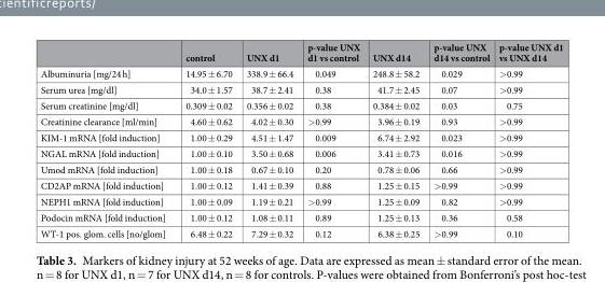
<table><thead><tr><td></td><td>control</td><td>UNX d1</td><td>p-value UNX d1 vs control</td><td>UNX d14</td><td>p-value UNX d14 vs control</td><td>p-value UNX d1 vs UNX d14</td></tr></thead><tbody><tr><td>Albuminuria [mg/24 h]</td><td>14.95 ± 6.70</td><td>338.9 ± 66.4</td><td>0.049</td><td>248.8 ± 58.2</td><td>0.029</td><td>&gt;0.99</td></tr><tr><td>Serum urea [mg/dl]</td><td>34.0 ± 1.57</td><td>38.7 ± 2.41</td><td>0.38</td><td>41.7 ± 2.45</td><td>0.07</td><td>&gt;0.99</td></tr><tr><td>Serum creatinine [mg/dl]</td><td>0.309 ± 0.02</td><td>0.356 ± 0.02</td><td>0.38</td><td>0.384 ± 0.02</td><td>0.03</td><td>0.75</td></tr><tr><td>Creatinine clearance [ml/min]</td><td>4.60 ± 0.62</td><td>4.02 ± 0.30</td><td>&gt;0.99</td><td>3.96 ± 0.19</td><td>0.93</td><td>&gt;0.99</td></tr><tr><td>KIM-1 mRNA [fold induction]</td><td>1.00 ± 0.29</td><td>4.51 ± 1.47</td><td>0.009</td><td>6.74 ± 2.92</td><td>0.023</td><td>&gt;0.99</td></tr><tr><td>NGAL mRNA [fold induction]</td><td>1.00 ± 0.10</td><td>3.50 ± 0.68</td><td>0.006</td><td>3.41 ± 0.73</td><td>0.016</td><td>&gt;0.99</td></tr><tr><td>Umod mRNA [fold induction]</td><td>1.00 ± 0.18</td><td>0.67 ± 0.10</td><td>0.20</td><td>0.78 ± 0.06</td><td>0.66</td><td>&gt;0.99</td></tr><tr><td>CD2AP mRNA [fold induction]</td><td>1.00 ± 0.12</td><td>1.41 ± 0.39</td><td>0.88</td><td>1.25 ± 0.15</td><td>&gt;0.99</td><td>&gt;0.99</td></tr><tr><td>NEPH1 mRNA [fold induction]</td><td>1.00 ± 0.09</td><td>1.19 ± 0.21</td><td>&gt;0.99</td><td>1.25 ± 0.09</td><td>0.82</td><td>&gt;0.99</td></tr><tr><td>Podocin mRNA [fold induction]</td><td>1.00 ± 0.12</td><td>1.08 ± 0.11</td><td>0.89</td><td>1.25 ± 0.13</td><td>0.36</td><td>0.58</td></tr><tr><td>WT-1 pos. glom. cells [no/glom]</td><td>6.48 ± 0.22</td><td>7.29 ± 0.32</td><td>0.12</td><td>6.38 ± 0.25</td><td>&gt;0.99</td><td>0.10</td></tr></tbody></table>